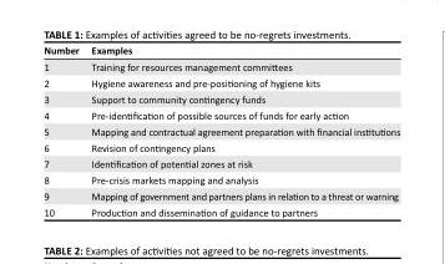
<table><thead><tr><td>Number</td><td>Examples</td></tr></thead><tbody><tr><td>1</td><td>Training for resources management committees</td></tr><tr><td>2</td><td>Hygiene awareness and pre-positioning of hygiene kits</td></tr><tr><td>3</td><td>Support to community contingency funds</td></tr><tr><td>4</td><td>Pre-identification of possible sources of funds for early action</td></tr><tr><td>5</td><td>Mapping and contractual agreement preparation with financial institutions</td></tr><tr><td>6</td><td>Revision of contingency plans</td></tr><tr><td>7</td><td>Identification of potential zones at risk</td></tr><tr><td>8</td><td>Pre-crisis markets mapping and analysis</td></tr><tr><td>9</td><td>Mapping of government and partners plans in relation to a threat or warning</td></tr><tr><td>10</td><td>Production and dissemination of guidance to partners</td></tr></tbody></table>